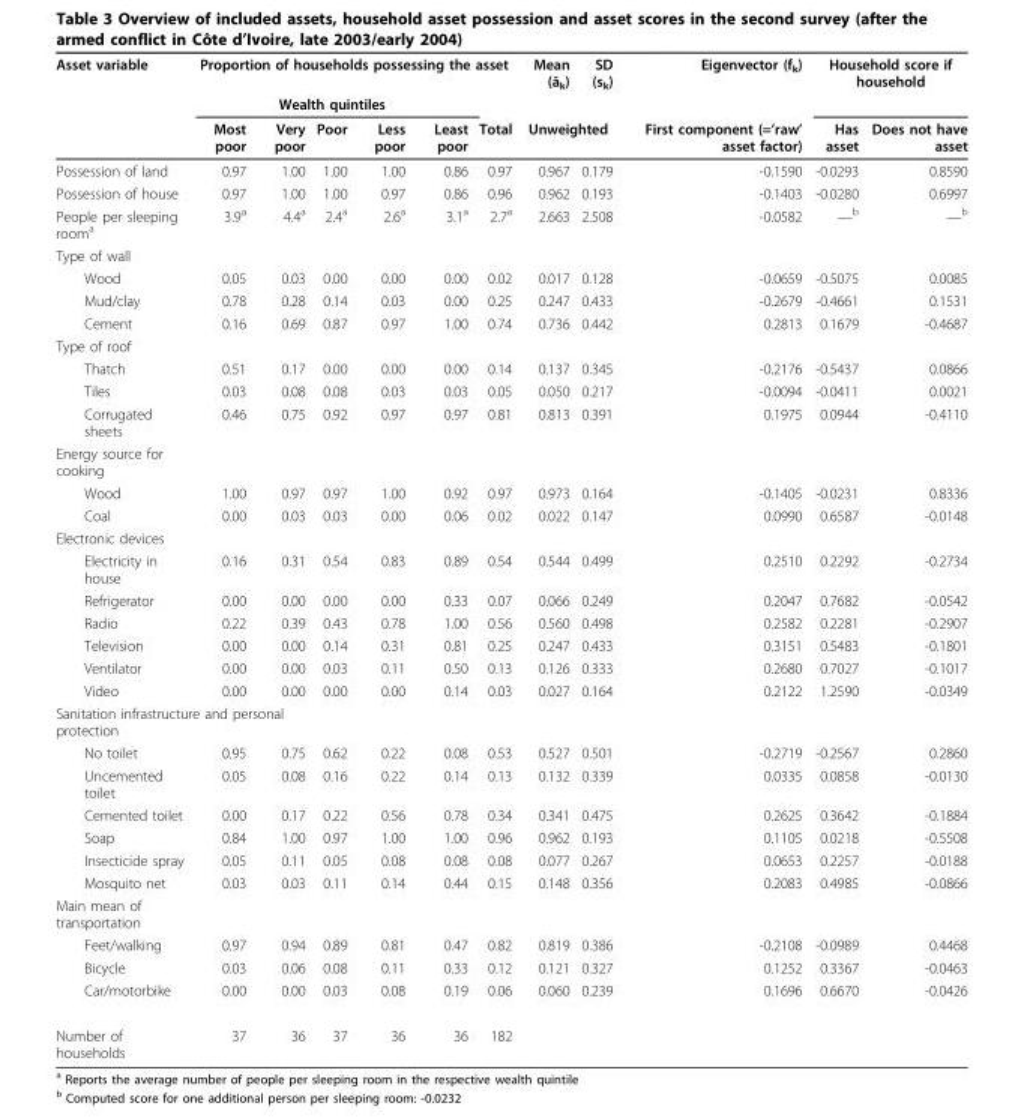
<table><thead><tr><td rowspan="3">Asset variable</td><td colspan="6">Proportion of households possessing the asset</td><td rowspan="2">Mean (ā<sub>k</sub>)</td><td rowspan="2">SD (s<sub>k</sub>)</td><td rowspan="3">Eigenvector (f<sub>k</sub>) First component (=’raw’ asset factor)</td><td colspan="2">Household score if household</td></tr><tr><td colspan="5">Wealth quintiles</td><td rowspan="2">Total</td><td rowspan="2">Has asset</td><td rowspan="2">Does not have asset</td></tr><tr><td>Most poor</td><td>Very poor</td><td>Poor</td><td>Less poor</td><td>Least poor</td><td colspan="2">Unweighted</td></tr></thead><tbody><tr><td>Possession of land</td><td>0.97</td><td>1.00</td><td>1.00</td><td>1.00</td><td>0.86</td><td>0.97</td><td>0.967</td><td>0.179</td><td>-0.1590</td><td>-0.0293</td><td>0.8590</td></tr><tr><td>Possession of house</td><td>0.97</td><td>1.00</td><td>1.00</td><td>0.97</td><td>0.86</td><td>0.96</td><td>0.962</td><td>0.193</td><td>-0.1403</td><td>-0.0280</td><td>0.6997</td></tr><tr><td>People per sleeping room<sup>a</sup></td><td>3.9<sup>a</sup></td><td>4.4<sup>a</sup></td><td>2.4<sup>a</sup></td><td>2.6<sup>a</sup></td><td>3.1<sup>a</sup></td><td>2.7<sup>a</sup></td><td>2.663</td><td>2.508</td><td>-0.0582</td><td>—b</td><td>—b</td></tr><tr><td colspan="12">Type of wall</td></tr><tr><td>Wood</td><td>0.05</td><td>0.03</td><td>0.00</td><td>0.00</td><td>0.00</td><td>0.02</td><td>0.017</td><td>0.128</td><td>-0.0659</td><td>-0.5075</td><td>0.0085</td></tr><tr><td>Mud/clay</td><td>0.78</td><td>0.28</td><td>0.14</td><td>0.03</td><td>0.00</td><td>0.25</td><td>0.247</td><td>0.433</td><td>-0.2679</td><td>-0.4661</td><td>0.1531</td></tr><tr><td>Cement</td><td>0.16</td><td>0.69</td><td>0.87</td><td>0.97</td><td>1.00</td><td>0.74</td><td>0.736</td><td>0.442</td><td>0.2813</td><td>0.1679</td><td>-0.4687</td></tr><tr><td colspan="12">Type of roof</td></tr><tr><td>Thatch</td><td>0.51</td><td>0.17</td><td>0.00</td><td>0.00</td><td>0.00</td><td>0.14</td><td>0.137</td><td>0.345</td><td>-0.2176</td><td>-0.5437</td><td>0.0866</td></tr><tr><td>Tiles</td><td>0.03</td><td>0.08</td><td>0.08</td><td>0.03</td><td>0.03</td><td>0.05</td><td>0.050</td><td>0.217</td><td>-0.0094</td><td>-0.0411</td><td>0.0021</td></tr><tr><td>Corrugated sheets</td><td>0.46</td><td>0.75</td><td>0.92</td><td>0.97</td><td>0.97</td><td>0.81</td><td>0.813</td><td>0.391</td><td>0.1975</td><td>0.0944</td><td>-0.4110</td></tr><tr><td colspan="12">Energy source for cooking</td></tr><tr><td>Wood</td><td>1.00</td><td>0.97</td><td>0.97</td><td>1.00</td><td>0.92</td><td>0.97</td><td>0.973</td><td>0.164</td><td>-0.1405</td><td>-0.0231</td><td>0.8336</td></tr><tr><td>Coal</td><td>0.00</td><td>0.03</td><td>0.03</td><td>0.00</td><td>0.06</td><td>0.02</td><td>0.022</td><td>0.147</td><td>0.0990</td><td>0.6587</td><td>-0.0148</td></tr><tr><td colspan="12">Electronic devices</td></tr><tr><td>Electricity in house</td><td>0.16</td><td>0.31</td><td>0.54</td><td>0.83</td><td>0.89</td><td>0.54</td><td>0.544</td><td>0.499</td><td>0.2510</td><td>0.2292</td><td>-0.2734</td></tr><tr><td>Refrigerator</td><td>0.00</td><td>0.00</td><td>0.00</td><td>0.00</td><td>0.33</td><td>0.07</td><td>0.066</td><td>0.249</td><td>0.2047</td><td>0.7682</td><td>-0.0542</td></tr><tr><td>Radio</td><td>0.22</td><td>0.39</td><td>0.43</td><td>0.78</td><td>1.00</td><td>0.56</td><td>0.560</td><td>0.498</td><td>0.2582</td><td>0.2281</td><td>-0.2907</td></tr><tr><td>Television</td><td>0.00</td><td>0.00</td><td>0.14</td><td>0.31</td><td>0.81</td><td>0.25</td><td>0.247</td><td>0.433</td><td>0.3151</td><td>0.5483</td><td>-0.1801</td></tr><tr><td>Ventilator</td><td>0.00</td><td>0.00</td><td>0.03</td><td>0.11</td><td>0.50</td><td>0.13</td><td>0.126</td><td>0.333</td><td>0.2680</td><td>0.7027</td><td>-0.1017</td></tr><tr><td>Video</td><td>0.00</td><td>0.00</td><td>0.00</td><td>0.00</td><td>0.14</td><td>0.03</td><td>0.027</td><td>0.164</td><td>0.2122</td><td>1.2590</td><td>-0.0349</td></tr><tr><td colspan="12">Sanitation infrastructure and personal protection</td></tr><tr><td>No toilet</td><td>0.95</td><td>0.75</td><td>0.62</td><td>0.22</td><td>0.08</td><td>0.53</td><td>0.527</td><td>0.501</td><td>-0.2719</td><td>-0.2567</td><td>0.2860</td></tr><tr><td>Uncemented toilet</td><td>0.05</td><td>0.08</td><td>0.16</td><td>0.22</td><td>0.14</td><td>0.13</td><td>0.132</td><td>0.339</td><td>0.0335</td><td>0.0858</td><td>-0.0130</td></tr><tr><td>Cemented toilet</td><td>0.00</td><td>0.17</td><td>0.22</td><td>0.56</td><td>0.78</td><td>0.34</td><td>0.341</td><td>0.475</td><td>0.2625</td><td>0.3642</td><td>-0.1884</td></tr><tr><td>Soap</td><td>0.84</td><td>1.00</td><td>0.97</td><td>1.00</td><td>1.00</td><td>0.96</td><td>0.962</td><td>0.193</td><td>0.1105</td><td>0.0218</td><td>-0.5508</td></tr><tr><td>Insecticide spray</td><td>0.05</td><td>0.11</td><td>0.05</td><td>0.08</td><td>0.08</td><td>0.08</td><td>0.077</td><td>0.267</td><td>0.0653</td><td>0.2257</td><td>-0.0188</td></tr><tr><td>Mosquito net</td><td>0.03</td><td>0.03</td><td>0.11</td><td>0.14</td><td>0.44</td><td>0.15</td><td>0.148</td><td>0.356</td><td>0.2083</td><td>0.4985</td><td>-0.0866</td></tr><tr><td colspan="12">Main mean of transportation</td></tr><tr><td>Feet/walking</td><td>0.97</td><td>0.94</td><td>0.89</td><td>0.81</td><td>0.47</td><td>0.82</td><td>0.819</td><td>0.386</td><td>-0.2108</td><td>-0.0989</td><td>0.4468</td></tr><tr><td>Bicycle</td><td>0.03</td><td>0.06</td><td>0.08</td><td>0.11</td><td>0.33</td><td>0.12</td><td>0.121</td><td>0.327</td><td>0.1252</td><td>0.3367</td><td>-0.0463</td></tr><tr><td>Car/motorbike</td><td>0.00</td><td>0.00</td><td>0.03</td><td>0.08</td><td>0.19</td><td>0.06</td><td>0.060</td><td>0.239</td><td>0.1696</td><td>0.6670</td><td>-0.0426</td></tr><tr><td>Number of households</td><td>37</td><td>36</td><td>37</td><td>36</td><td>36</td><td>182</td><td></td><td></td><td></td><td></td><td></td></tr></tbody></table>